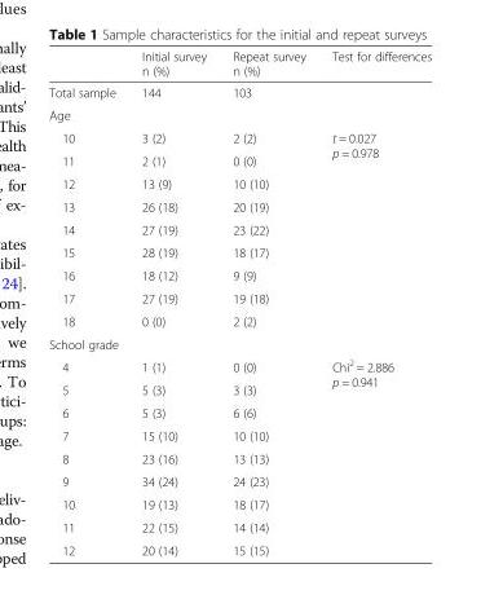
<table><thead><tr><td></td><td>Initial survey n (%)</td><td>Repeat survey n (%)</td><td>Test for differences</td></tr></thead><tbody><tr><td>Total sample</td><td>144</td><td>103</td><td></td></tr><tr><td colspan="4">Age</td></tr><tr><td>10</td><td>3 (2)</td><td>2 (2)</td><td rowspan="9">t = 0.027 p = 0.978</td></tr><tr><td>11</td><td>2 (1)</td><td>0 (0)</td></tr><tr><td>12</td><td>13 (9)</td><td>10 (10)</td></tr><tr><td>13</td><td>26 (18)</td><td>20 (19)</td></tr><tr><td>14</td><td>27 (19)</td><td>23 (22)</td></tr><tr><td>15</td><td>28 (19)</td><td>18 (17)</td></tr><tr><td>16</td><td>18 (12)</td><td>9 (9)</td></tr><tr><td>17</td><td>27 (19)</td><td>19 (18)</td></tr><tr><td>18</td><td>0 (0)</td><td>2 (2)</td></tr><tr><td colspan="4">School grade</td></tr><tr><td>4</td><td>1 (1)</td><td>0 (0)</td><td rowspan="9">Chi<sup>2</sup> = 2.886 p = 0.941</td></tr><tr><td>5</td><td>5 (3)</td><td>3 (3)</td></tr><tr><td>6</td><td>5 (3)</td><td>6 (6)</td></tr><tr><td>7</td><td>15 (10)</td><td>10 (10)</td></tr><tr><td>8</td><td>23 (16)</td><td>13 (13)</td></tr><tr><td>9</td><td>34 (24)</td><td>24 (23)</td></tr><tr><td>10</td><td>19 (13)</td><td>18 (17)</td></tr><tr><td>11</td><td>22 (15)</td><td>14 (14)</td></tr><tr><td>12</td><td>20 (14)</td><td>15 (15)</td></tr></tbody></table>